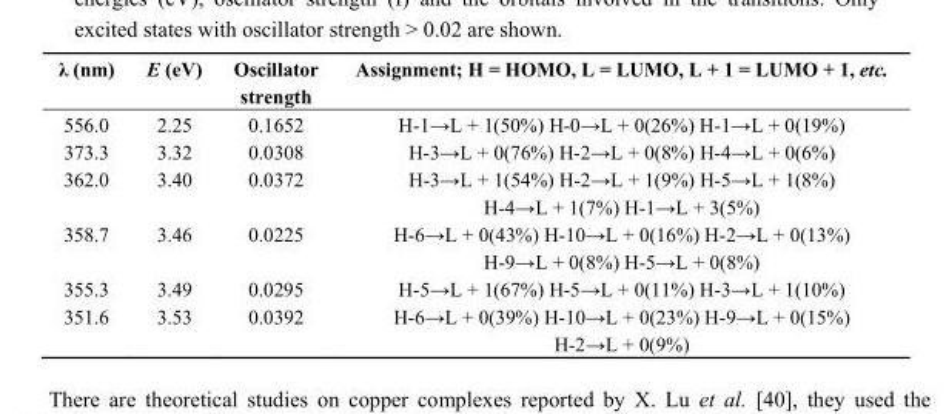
<table><thead><tr><td>λ (nm)</td><td>E (eV)</td><td>Oscillator strength</td><td>Assignment; H = HOMO, L = LUMO, L + 1 = LUMO + 1, etc.</td></tr></thead><tbody><tr><td>556.0</td><td>2.25</td><td>0.1652</td><td>H-1→L + 1(50%) H-0→L + 0(26%) H-1→L + 0(19%)</td></tr><tr><td>373.3</td><td>3.32</td><td>0.0308</td><td>H-3→L + 0(76%) H-2→L + 0(8%) H-4→L + 0(6%)</td></tr><tr><td rowspan="2">362.0</td><td>3.40</td><td>0.0372</td><td>H-3→L + 1(54%) H-2→L + 1(9%) H-5→L + 1(8%)</td></tr><tr><td></td><td></td><td>H-4→L + 1(7%) H-1→L + 3(5%)</td></tr><tr><td rowspan="2">358.7</td><td>3.46</td><td>0.0225</td><td>H-6→L + 0(43%) H-10→L + 0(16%) H-2→L + 0(13%)</td></tr><tr><td></td><td></td><td>H-9→L + 0(8%) H-5→L + 0(8%)</td></tr><tr><td>355.3</td><td>3.49</td><td>0.0295</td><td>H-5→L + 1(67%) H-5→L + 0(11%) H-3→L + 1(10%)</td></tr><tr><td rowspan="2">351.6</td><td>3.53</td><td>0.0392</td><td>H-6→L + 0(39%) H-10→L + 0(23%) H-9→L + 0(15%)</td></tr><tr><td></td><td></td><td>H-2→L + 0(9%)</td></tr></tbody></table>